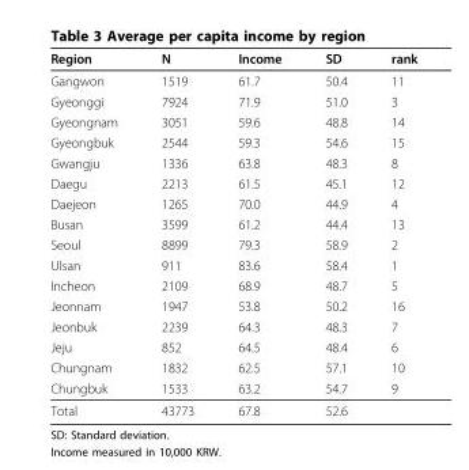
<table><thead><tr><td>Region</td><td>N</td><td>Income</td><td>SD</td><td>rank</td></tr></thead><tbody><tr><td>Gangwon</td><td>1519</td><td>61.7</td><td>50.4</td><td>11</td></tr><tr><td>Gyeonggi</td><td>7924</td><td>71.9</td><td>51.0</td><td>3</td></tr><tr><td>Gyeongnam</td><td>3051</td><td>59.6</td><td>48.8</td><td>14</td></tr><tr><td>Gyeongbuk</td><td>2544</td><td>59.3</td><td>54.6</td><td>15</td></tr><tr><td>Gwangju</td><td>1336</td><td>63.8</td><td>48.3</td><td>8</td></tr><tr><td>Daegu</td><td>2213</td><td>61.5</td><td>45.1</td><td>12</td></tr><tr><td>Daejeon</td><td>1265</td><td>70.0</td><td>44.9</td><td>4</td></tr><tr><td>Busan</td><td>3599</td><td>61.2</td><td>44.4</td><td>13</td></tr><tr><td>Seoul</td><td>8899</td><td>79.3</td><td>58.9</td><td>2</td></tr><tr><td>Ulsan</td><td>911</td><td>83.6</td><td>58.4</td><td>1</td></tr><tr><td>Incheon</td><td>2109</td><td>68.9</td><td>48.7</td><td>5</td></tr><tr><td>Jeonnam</td><td>1947</td><td>53.8</td><td>50.2</td><td>16</td></tr><tr><td>Jeonbuk</td><td>2239</td><td>64.3</td><td>48.3</td><td>7</td></tr><tr><td>Jeju</td><td>852</td><td>64.5</td><td>48.4</td><td>6</td></tr><tr><td>Chungnam</td><td>1832</td><td>62.5</td><td>57.1</td><td>10</td></tr><tr><td>Chungbuk</td><td>1533</td><td>63.2</td><td>54.7</td><td>9</td></tr><tr><td>Total</td><td>43773</td><td>67.8</td><td>52.6</td><td></td></tr></tbody></table>